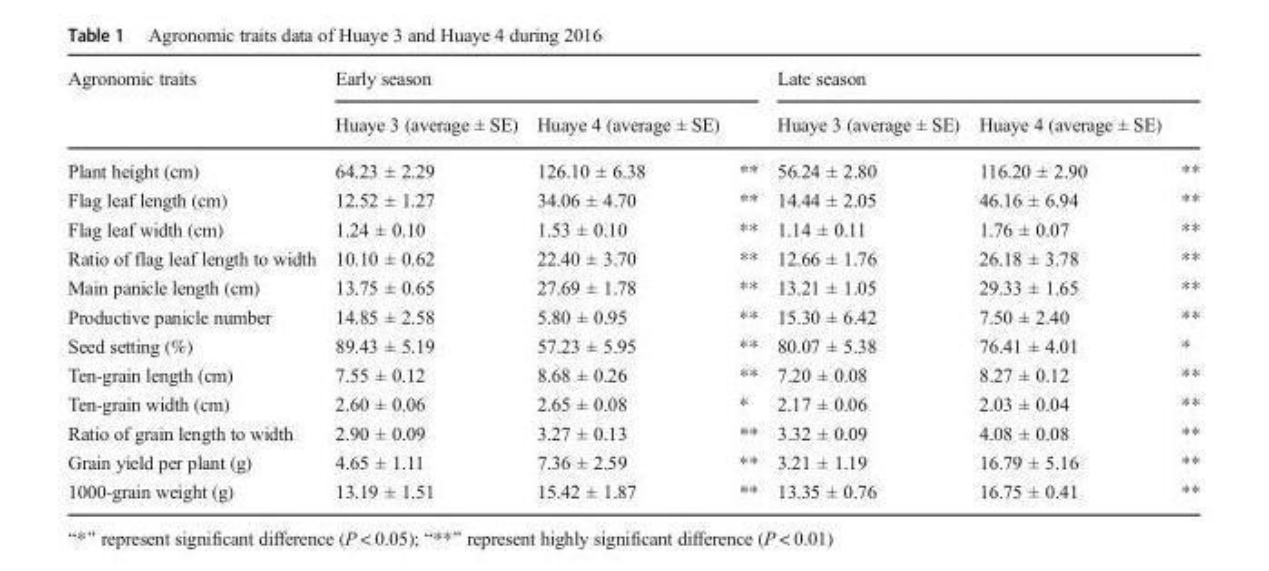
<table><thead><tr><td rowspan="2">Agronomic traits</td><td colspan="3">Early season</td><td colspan="3">Late season</td></tr><tr><td>Huaye 3 (average ± SE)</td><td>Huaye 4 (average ± SE)</td><td></td><td>Huaye 3 (average ± SE)</td><td>Huaye 4 (average ± SE)</td><td></td></tr></thead><tbody><tr><td>Plant height (cm)</td><td>64.23 ± 2.29</td><td>126.10 ± 6.38</td><td>**</td><td>56.24 ± 2.80</td><td>116.20 ± 2.90</td><td>**</td></tr><tr><td>Flag leaf length (cm)</td><td>12.52 ± 1.27</td><td>34.06 ± 4.70</td><td>**</td><td>14.44 ± 2.05</td><td>46.16 ± 6.94</td><td>**</td></tr><tr><td>Flag leaf width (cm)</td><td>1.24 ± 0.10</td><td>1.53 ± 0.10</td><td>**</td><td>1.14 ± 0.11</td><td>1.76 ± 0.07</td><td>**</td></tr><tr><td>Ratio of flag leaf length to width</td><td>10.10 ± 0.62</td><td>22.40 ± 3.70</td><td>**</td><td>12.66 ± 1.76</td><td>26.18 ± 3.78</td><td>**</td></tr><tr><td>Main panicle length (cm)</td><td>13.75 ± 0.65</td><td>27.69 ± 1.78</td><td>**</td><td>13.21 ± 1.05</td><td>29.33 ± 1.65</td><td>**</td></tr><tr><td>Productive panicle number</td><td>14.85 ± 2.58</td><td>5.80 ± 0.95</td><td>**</td><td>15.30 ± 6.42</td><td>7.50 ± 2.40</td><td>**</td></tr><tr><td>Seed setting (%)</td><td>89.43 ± 5.19</td><td>57.23 ± 5.95</td><td>**</td><td>80.07 ± 5.38</td><td>76.41 ± 4.01</td><td>*</td></tr><tr><td>Ten-grain length (cm)</td><td>7.55 ± 0.12</td><td>8.68 ± 0.26</td><td>**</td><td>7.20 ± 0.08</td><td>8.27 ± 0.12</td><td>**</td></tr><tr><td>Ten-grain width (cm)</td><td>2.60 ± 0.06</td><td>2.65 ± 0.08</td><td>*</td><td>2.17 ± 0.06</td><td>2.03 ± 0.04</td><td>**</td></tr><tr><td>Ratio of grain length to width</td><td>2.90 ± 0.09</td><td>3.27 ± 0.13</td><td>**</td><td>3.32 ± 0.09</td><td>4.08 ± 0.08</td><td>**</td></tr><tr><td>Grain yield per plant (g)</td><td>4.65 ± 1.11</td><td>7.36 ± 2.59</td><td>**</td><td>3.21 ± 1.19</td><td>16.79 ± 5.16</td><td>**</td></tr><tr><td>1000-grain weight (g)</td><td>13.19 ± 1.51</td><td>15.42 ± 1.87</td><td>**</td><td>13.35 ± 0.76</td><td>16.75 ± 0.41</td><td>**</td></tr></tbody></table>